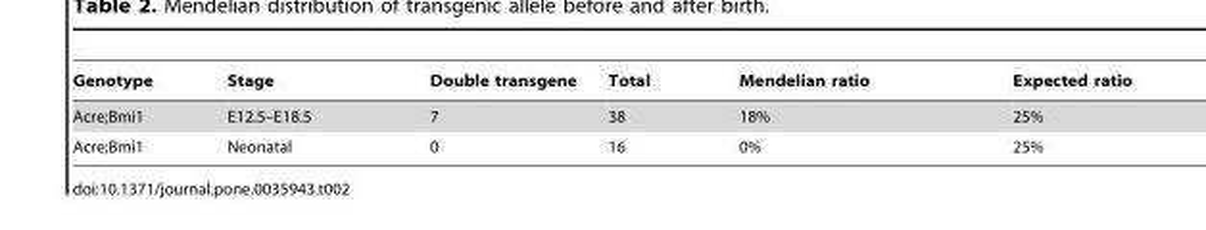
<table><thead><tr><td>Genotype</td><td>Stage</td><td>Double transgene</td><td>Total</td><td>Mendelian ratio</td><td>Expected ratio</td></tr></thead><tbody><tr><td>Acre;Bmi1</td><td>E12.5–E18.5</td><td>7</td><td>38</td><td>18%</td><td>25%</td></tr><tr><td>Acre;Bmi1</td><td>Neonatal</td><td>0</td><td>16</td><td>0%</td><td>25%</td></tr></tbody></table>